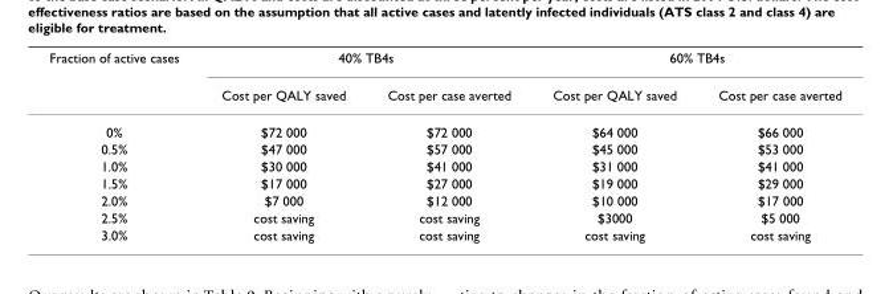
<table><thead><tr><td rowspan="2">Fraction of active cases</td><td colspan="2">40% TB4s</td><td colspan="2">60% TB4s</td></tr><tr><td>Cost per QALY saved</td><td>Cost per case averted</td><td>Cost per QALY saved</td><td>Cost per case averted</td></tr></thead><tbody><tr><td>0%</td><td>$72 000</td><td>$72 000</td><td>$64 000</td><td>$66 000</td></tr><tr><td>0.5%</td><td>$47 000</td><td>$57 000</td><td>$45 000</td><td>$53 000</td></tr><tr><td>1.0%</td><td>$30 000</td><td>$41 000</td><td>$31 000</td><td>$41 000</td></tr><tr><td>1.5%</td><td>$17 000</td><td>$27 000</td><td>$19 000</td><td>$29 000</td></tr><tr><td>2.0%</td><td>$7 000</td><td>$12 000</td><td>$10 000</td><td>$17 000</td></tr><tr><td>2.5%</td><td>cost saving</td><td>cost saving</td><td>$3000</td><td>$5 000</td></tr><tr><td>3.0%</td><td>cost saving</td><td>cost saving</td><td>cost saving</td><td>cost saving</td></tr></tbody></table>